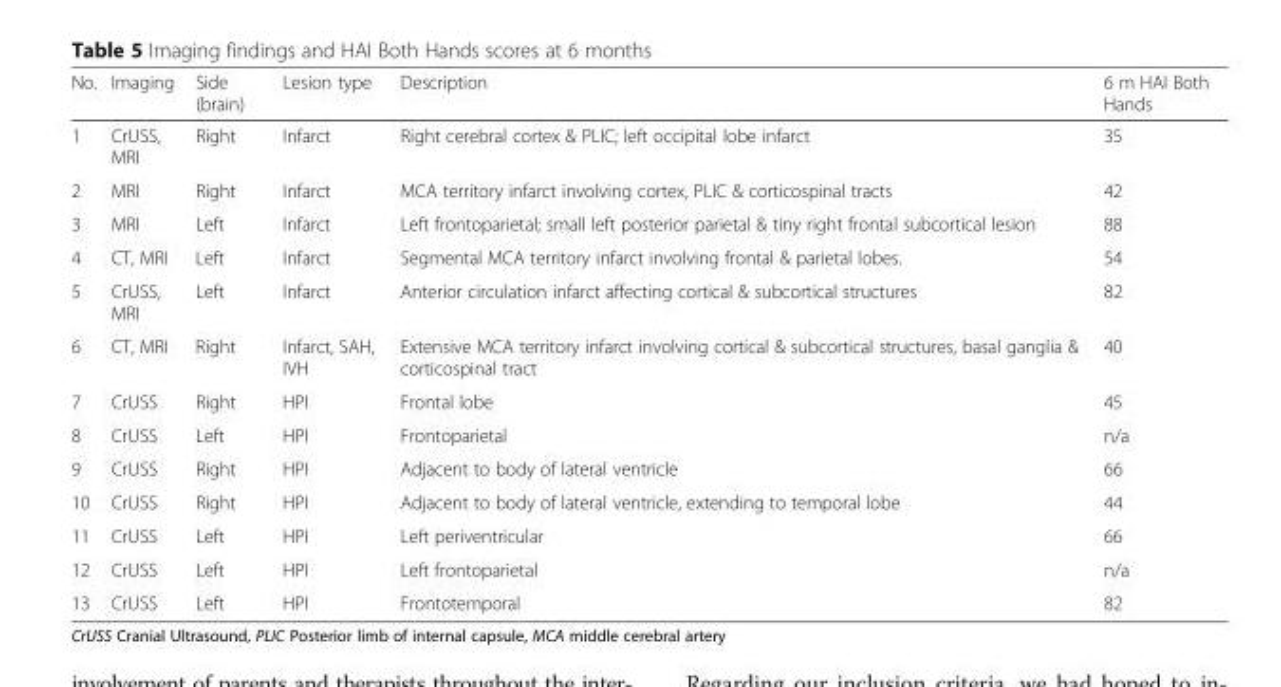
<table><thead><tr><td>No.</td><td>Imaging</td><td>Side (brain)</td><td>Lesion type</td><td>Description</td><td>6 m HAI Both Hands</td></tr></thead><tbody><tr><td>1</td><td>CrUSS, MRI</td><td>Right</td><td>Infarct</td><td>Right cerebral cortex &amp; PLIC; left occipital lobe infarct</td><td>35</td></tr><tr><td>2</td><td>MRI</td><td>Right</td><td>Infarct</td><td>MCA territory infarct involving cortex, PLIC &amp; corticospinal tracts</td><td>42</td></tr><tr><td>3</td><td>MRI</td><td>Left</td><td>Infarct</td><td>Left frontoparietal; small left posterior parietal &amp; tiny right frontal subcortical lesion</td><td>88</td></tr><tr><td>4</td><td>CT, MRI</td><td>Left</td><td>Infarct</td><td>Segmental MCA territory infarct involving frontal &amp; parietal lobes.</td><td>54</td></tr><tr><td>5</td><td>CrUSS, MRI</td><td>Left</td><td>Infarct</td><td>Anterior circulation infarct affecting cortical &amp; subcortical structures</td><td>82</td></tr><tr><td>6</td><td>CT, MRI</td><td>Right</td><td>Infarct, SAH, IVH</td><td>Extensive MCA territory infarct involving cortical &amp; subcortical structures, basal ganglia &amp; corticospinal tract</td><td>40</td></tr><tr><td>7</td><td>CrUSS</td><td>Right</td><td>HPI</td><td>Frontal lobe</td><td>45</td></tr><tr><td>8</td><td>CrUSS</td><td>Left</td><td>HPI</td><td>Frontoparietal</td><td>n/a</td></tr><tr><td>9</td><td>CrUSS</td><td>Right</td><td>HPI</td><td>Adjacent to body of lateral ventricle</td><td>66</td></tr><tr><td>10</td><td>CrUSS</td><td>Right</td><td>HPI</td><td>Adjacent to body of lateral ventricle, extending to temporal lobe</td><td>44</td></tr><tr><td>11</td><td>CrUSS</td><td>Left</td><td>HPI</td><td>Left periventricular</td><td>66</td></tr><tr><td>12</td><td>CrUSS</td><td>Left</td><td>HPI</td><td>Left frontoparietal</td><td>n/a</td></tr><tr><td>13</td><td>CrUSS</td><td>Left</td><td>HPI</td><td>Frontotemporal</td><td>82</td></tr></tbody></table>